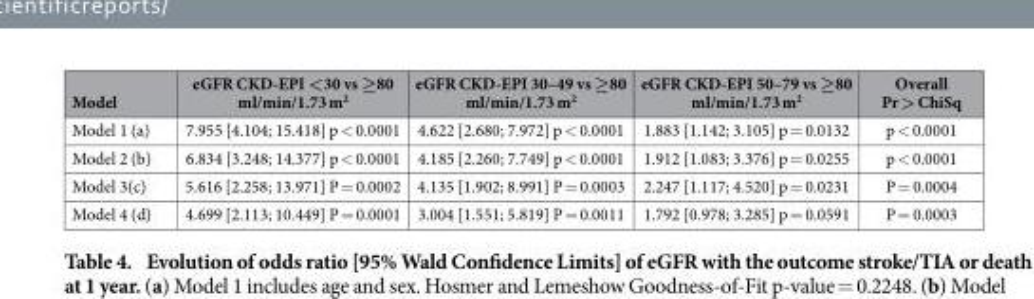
<table><thead><tr><td>Model</td><td>eGFR CKD-EPI &lt;30 vs ≥80 ml/min/1.73 m<sup>2</sup></td><td>eGFR CKD-EPI 30–49 vs ≥80 ml/min/1.73 m<sup>2</sup></td><td>eGFR CKD-EPI 50–79 vs ≥80 ml/min/1.73 m<sup>2</sup></td><td>Overall Pr &gt; ChiSq</td></tr></thead><tbody><tr><td>Model 1 (a)</td><td>7.955 [4.104; 15.418] p &lt; 0.0001</td><td>4.622 [2.680; 7.972] p &lt; 0.0001</td><td>1.883 [1.142; 3.105] p = 0.0132</td><td>p &lt; 0.0001</td></tr><tr><td>Model 2 (b)</td><td>6.834 [3.248; 14.377] p &lt; 0.0001</td><td>4.185 [2.260; 7.749] p &lt; 0.0001</td><td>1.912 [1.083; 3.376] p = 0.0255</td><td>p &lt; 0.0001</td></tr><tr><td>Model 3(c)</td><td>5.616 [2.258; 13.971] P = 0.0002</td><td>4.135 [1.902; 8.991] P = 0.0003</td><td>2.247 [1.117; 4.520] p = 0.0231</td><td>P = 0.0004</td></tr><tr><td>Model 4 (d)</td><td>4.699 [2.113; 10.449] P = 0.0001</td><td>3.004 [1.551; 5.819] P = 0.0011</td><td>1.792 [0.978; 3.285] p = 0.0591</td><td>P = 0.0003</td></tr></tbody></table>